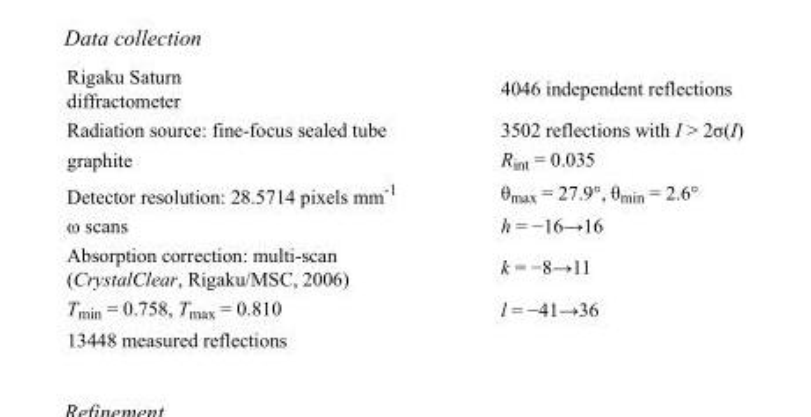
<table><tbody><tr><td>Rigaku Saturn diffractometer</td><td>4046 independent reflections</td></tr><tr><td>Radiation source: fine-focus sealed tube</td><td>3502 reflections with I &gt; 2σ(I)</td></tr><tr><td>graphite</td><td>R<sub>int</sub> = 0.035</td></tr><tr><td>Detector resolution: 28.5714 pixels mm<sup>-1</sup></td><td>θ<sub>max</sub> = 27.9°, θ<sub>min</sub> = 2.6°</td></tr><tr><td>ω scans</td><td>h = −16→16</td></tr><tr><td>Absorption correction: multi-scan (CrystalClear, Rigaku/MSC, 2006)</td><td>k = −8→11</td></tr><tr><td>T<sub>min</sub> = 0.758, T<sub>max</sub> = 0.810</td><td>l = −41→36</td></tr><tr><td>13448 measured reflections</td><td></td></tr></tbody></table>